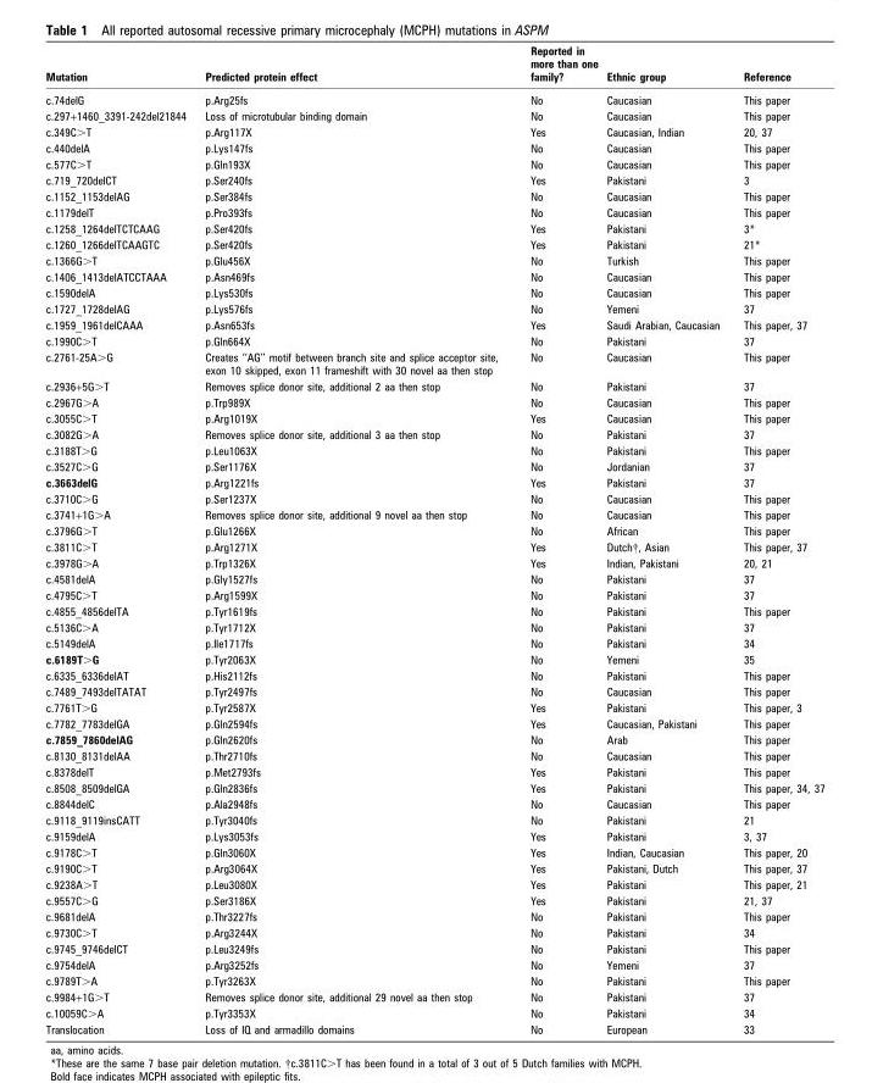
<table><thead><tr><td>Mutation</td><td>Predicted protein effect</td><td>Reported in more than one family?</td><td>Ethnic group</td><td>Reference</td></tr></thead><tbody><tr><td>c.74delG</td><td>p.Arg25fs</td><td>No</td><td>Caucasian</td><td>This paper</td></tr><tr><td>c.297+1460_3391-242del21844</td><td>Loss of microtubular binding domain</td><td>No</td><td>Caucasian</td><td>This paper</td></tr><tr><td>c.349C&gt;T</td><td>p.Arg117X</td><td>Yes</td><td>Caucasian, Indian</td><td>20, 37</td></tr><tr><td>c.440delA</td><td>p.Lys147fs</td><td>No</td><td>Caucasian</td><td>This paper</td></tr><tr><td>c.577C&gt;T</td><td>p.Gln193X</td><td>No</td><td>Caucasian</td><td>This paper</td></tr><tr><td>c.719_720delCT</td><td>p.Ser240fs</td><td>Yes</td><td>Pakistani</td><td>3</td></tr><tr><td>c.1152_1153delAG</td><td>p.Ser384fs</td><td>No</td><td>Caucasian</td><td>This paper</td></tr><tr><td>c.1179delT</td><td>p.Pro393fs</td><td>No</td><td>Caucasian</td><td>This paper</td></tr><tr><td>c.1258_1264delTCTCAAG</td><td>p.Ser420fs</td><td>Yes</td><td>Pakistani</td><td>3*</td></tr><tr><td>c.1260_1266delTCAAGTC</td><td>p.Ser420fs</td><td>Yes</td><td>Pakistani</td><td>21*</td></tr><tr><td>c.1366G&gt;T</td><td>p.Glu456X</td><td>No</td><td>Turkish</td><td>This paper</td></tr><tr><td>c.1406_1413delATCCTAAA</td><td>p.Asn469fs</td><td>No</td><td>Caucasian</td><td>This paper</td></tr><tr><td>c.1590delA</td><td>p.Lys530fs</td><td>No</td><td>Caucasian</td><td>This paper</td></tr><tr><td>c.1727_1728delAG</td><td>p.Lys576fs</td><td>No</td><td>Yemeni</td><td>37</td></tr><tr><td>c.1959_1961delCAAA</td><td>p.Asn653fs</td><td>Yes</td><td>Saudi Arabian, Caucasian</td><td>This paper, 37</td></tr><tr><td>c.1990C&gt;T</td><td>p.Gln664X</td><td>No</td><td>Pakistani</td><td>37</td></tr><tr><td>c.2761-25A&gt;G</td><td>Creates ‘‘AG’’ motif between branch site and splice acceptor site, exon 10 skipped, exon 11 frameshift with 30 novel aa then stop</td><td>No</td><td>Caucasian</td><td>This paper</td></tr><tr><td>c.2936+5G&gt;T</td><td>Removes splice donor site, additional 2 aa then stop</td><td>No</td><td>Pakistani</td><td>37</td></tr><tr><td>c.2967G&gt;A</td><td>p.Trp989X</td><td>No</td><td>Caucasian</td><td>This paper</td></tr><tr><td>c.3055C&gt;T</td><td>p.Arg1019X</td><td>Yes</td><td>Caucasian</td><td>This paper</td></tr><tr><td>c.3082G&gt;A</td><td>Removes splice donor site, additional 3 aa then stop</td><td>No</td><td>Pakistani</td><td>37</td></tr><tr><td>c.3188T&gt;G</td><td>p.Leu1063X</td><td>No</td><td>Pakistani</td><td>This paper</td></tr><tr><td>c.3527C&gt;G</td><td>p.Ser1176X</td><td>No</td><td>Jordanian</td><td>37</td></tr><tr><td>c.3663delG</td><td>p.Arg1221fs</td><td>Yes</td><td>Pakistani</td><td>37</td></tr><tr><td>c.3710C&gt;G</td><td>p.Ser1237X</td><td>No</td><td>Caucasian</td><td>This paper</td></tr><tr><td>c.3741+1G&gt;A</td><td>Removes splice donor site, additional 9 novel aa then stop</td><td>No</td><td>Caucasian</td><td>This paper</td></tr><tr><td>c.3796G&gt;T</td><td>p.Glu1266X</td><td>No</td><td>African</td><td>This paper</td></tr><tr><td>c.3811C&gt;T</td><td>p.Arg1271X</td><td>Yes</td><td>Dutch†, Asian</td><td>This paper, 37</td></tr><tr><td>c.3978G&gt;A</td><td>p.Trp1326X</td><td>Yes</td><td>Indian, Pakistani</td><td>20, 21</td></tr><tr><td>c.4581delA</td><td>p.Gly1527fs</td><td>No</td><td>Pakistani</td><td>37</td></tr><tr><td>c.4795C&gt;T</td><td>p.Arg1599X</td><td>No</td><td>Pakistani</td><td>37</td></tr><tr><td>c.4855_4856delTA</td><td>p.Tyr1619fs</td><td>No</td><td>Pakistani</td><td>This paper</td></tr><tr><td>c.5136C&gt;A</td><td>p.Tyr1712X</td><td>No</td><td>Pakistani</td><td>37</td></tr><tr><td>c.5149delA</td><td>p.Ile1717fs</td><td>No</td><td>Pakistani</td><td>34</td></tr><tr><td>c.6189T&gt;G</td><td>p.Tyr2063X</td><td>No</td><td>Yemeni</td><td>35</td></tr><tr><td>c.6335_6336delAT</td><td>p.His2112fs</td><td>No</td><td>Pakistani</td><td>This paper</td></tr><tr><td>c.7489_7493delTATAT</td><td>p.Tyr2497fs</td><td>No</td><td>Caucasian</td><td>This paper</td></tr><tr><td>c.7761T&gt;G</td><td>p.Tyr2587X</td><td>Yes</td><td>Pakistani</td><td>This paper, 3</td></tr><tr><td>c.7782_7783delGA</td><td>p.Gln2594fs</td><td>Yes</td><td>Caucasian, Pakistani</td><td>This paper</td></tr><tr><td>c.7859_7860delAG</td><td>p.Gln2620fs</td><td>No</td><td>Arab</td><td>This paper</td></tr><tr><td>c.8130_8131delAA</td><td>p.Thr2710fs</td><td>No</td><td>Caucasian</td><td>This paper</td></tr><tr><td>c.8378delT</td><td>p.Met2793fs</td><td>Yes</td><td>Pakistani</td><td>This paper</td></tr><tr><td>c.8508_8509delGA</td><td>p.Gln2836fs</td><td>Yes</td><td>Pakistani</td><td>This paper, 34, 37</td></tr><tr><td>c.8844delC</td><td>p.Ala2948fs</td><td>No</td><td>Caucasian</td><td>This paper</td></tr><tr><td>c.9118_9119insCATT</td><td>p.Tyr3040fs</td><td>No</td><td>Pakistani</td><td>21</td></tr><tr><td>c.9159delA</td><td>p.Lys3053fs</td><td>Yes</td><td>Pakistani</td><td>3, 37</td></tr><tr><td>c.9178C&gt;T</td><td>p.Gln3060X</td><td>Yes</td><td>Indian, Caucasian</td><td>This paper, 20</td></tr><tr><td>c.9190C&gt;T</td><td>p.Arg3064X</td><td>Yes</td><td>Pakistani, Dutch</td><td>This paper, 37</td></tr><tr><td>c.9238A&gt;T</td><td>p.Leu3080X</td><td>Yes</td><td>Pakistani</td><td>This paper, 21</td></tr><tr><td>c.9557C&gt;G</td><td>p.Ser3186X</td><td>Yes</td><td>Pakistani</td><td>21, 37</td></tr><tr><td>c.9681delA</td><td>p.Thr3227fs</td><td>No</td><td>Pakistani</td><td>This paper</td></tr><tr><td>c.9730C&gt;T</td><td>p.Arg3244X</td><td>No</td><td>Pakistani</td><td>34</td></tr><tr><td>c.9745_9746delCT</td><td>p.Leu3249fs</td><td>No</td><td>Pakistani</td><td>This paper</td></tr><tr><td>c.9754delA</td><td>p.Arg3252fs</td><td>No</td><td>Yemeni</td><td>37</td></tr><tr><td>c.9789T&gt;A</td><td>p.Tyr3263X</td><td>No</td><td>Pakistani</td><td>This paper</td></tr><tr><td>c.9984+1G&gt;T</td><td>Removes splice donor site, additional 29 novel aa then stop</td><td>No</td><td>Pakistani</td><td>37</td></tr><tr><td>c.10059C&gt;A</td><td>p.Tyr3353X</td><td>No</td><td>Pakistani</td><td>34</td></tr><tr><td>Translocation</td><td>Loss of IQ and armadillo domains</td><td>No</td><td>European</td><td>33</td></tr></tbody></table>